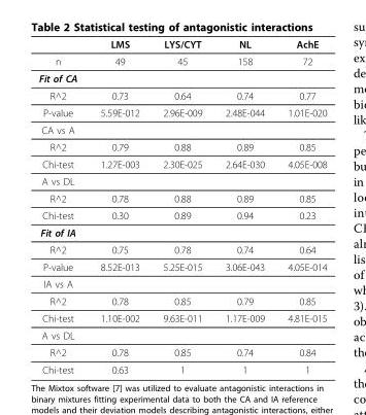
<table><thead><tr><td></td><td>LMS</td><td>LYS/CYT</td><td>NL</td><td>AchE</td></tr></thead><tbody><tr><td>n</td><td>49</td><td>45</td><td>158</td><td>72</td></tr><tr><td colspan="5">Fit of CA</td></tr><tr><td>R^2</td><td>0.73</td><td>0.64</td><td>0.74</td><td>0.77</td></tr><tr><td>P-value</td><td>5.59E-012</td><td>2.96E-009</td><td>2.48E-044</td><td>1.01E-020</td></tr><tr><td colspan="5">CA vs A</td></tr><tr><td>R^2</td><td>0.79</td><td>0.88</td><td>0.89</td><td>0.85</td></tr><tr><td>Chi-test</td><td>1.27E-003</td><td>2.30E-025</td><td>2.64E-030</td><td>4.05E-008</td></tr><tr><td colspan="5">A vs DL</td></tr><tr><td>R^2</td><td>0.78</td><td>0.88</td><td>0.89</td><td>0.85</td></tr><tr><td>Chi-test</td><td>0.30</td><td>0.89</td><td>0.94</td><td>0.23</td></tr><tr><td colspan="5">Fit of IA</td></tr><tr><td>R^2</td><td>0.75</td><td>0.78</td><td>0.74</td><td>0.64</td></tr><tr><td>P-value</td><td>8.52E-013</td><td>5.25E-015</td><td>3.06E-043</td><td>4.05E-014</td></tr><tr><td colspan="5">IA vs A</td></tr><tr><td>R^2</td><td>0.78</td><td>0.85</td><td>0.79</td><td>0.85</td></tr><tr><td>Chi-test</td><td>1.10E-002</td><td>9.63E-011</td><td>1.17E-009</td><td>4.81E-015</td></tr><tr><td colspan="5">A vs DL</td></tr><tr><td>R^2</td><td>0.78</td><td>0.85</td><td>0.74</td><td>0.84</td></tr><tr><td>Chi-test</td><td>0.63</td><td>1</td><td>1</td><td>1</td></tr></tbody></table>